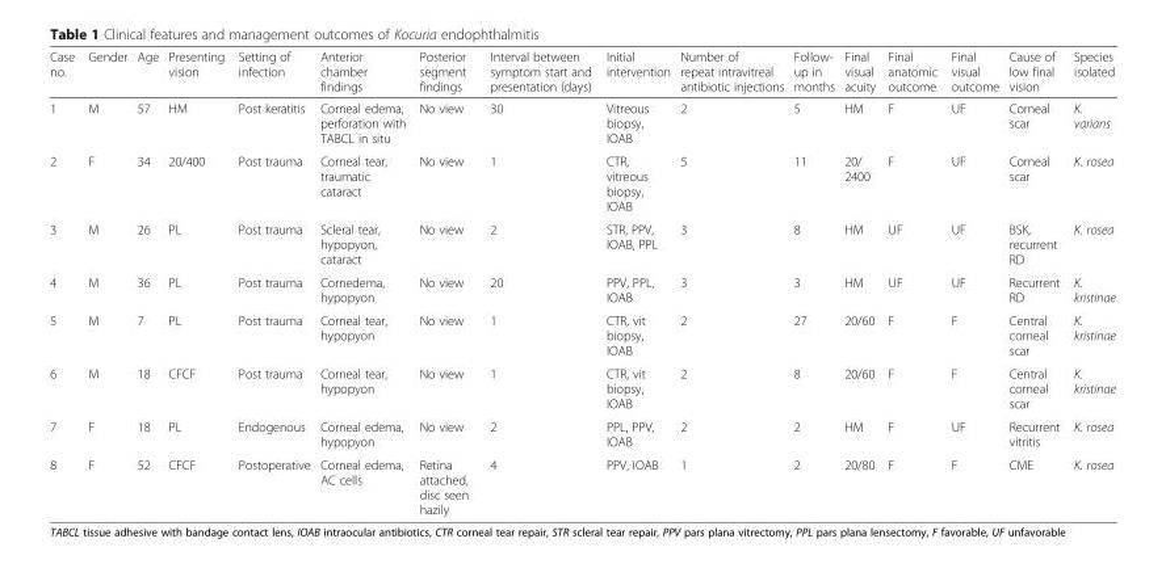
<table><thead><tr><td>Case no.</td><td>Gender</td><td>Age</td><td>Presenting vision</td><td>Setting of infection</td><td>Anterior chamber findings</td><td>Posterior segment findings</td><td>Interval between symptom start and presentation (days)</td><td>Initial intervention</td><td>Number of repeat intravitreal antibiotic injections</td><td>Follow- up in months</td><td>Final visual acuity</td><td>Final anatomic outcome</td><td>Final visual outcome</td><td>Cause of low final vision</td><td>Species isolated</td></tr></thead><tbody><tr><td>1</td><td>M</td><td>57</td><td>HM</td><td>Post keratitis</td><td>Corneal edema, perforation with TABCL in situ</td><td>No view</td><td>30</td><td>Vitreous biopsy, IOAB</td><td>2</td><td>5</td><td>HM</td><td>F</td><td>UF</td><td>Corneal scar</td><td>K. varians</td></tr><tr><td>2</td><td>F</td><td>34</td><td>20/400</td><td>Post trauma</td><td>Corneal tear, traumatic cataract</td><td>No view</td><td>1</td><td>CTR, vitreous biopsy, IOAB</td><td>5</td><td>11</td><td>20/ 2400</td><td>F</td><td>UF</td><td>Corneal scar</td><td>K. rosea</td></tr><tr><td>3</td><td>M</td><td>26</td><td>PL</td><td>Post trauma</td><td>Scleral tear, hypopyon, cataract</td><td>No view</td><td>2</td><td>STR, PPV, IOAB, PPL</td><td>3</td><td>8</td><td>HM</td><td>UF</td><td>UF</td><td>BSK, recurrent RD</td><td>K. rosea</td></tr><tr><td>4</td><td>M</td><td>36</td><td>PL</td><td>Post trauma</td><td>Cornedema, hypopyon</td><td>No view</td><td>20</td><td>PPV, PPL, IOAB</td><td>3</td><td>3</td><td>HM</td><td>UF</td><td>UF</td><td>Recurrent RD</td><td>K. kristinae</td></tr><tr><td>5</td><td>M</td><td>7</td><td>PL</td><td>Post trauma</td><td>Corneal tear, hypopyon</td><td>No view</td><td>1</td><td>CTR, vit biopsy, IOAB</td><td>2</td><td>27</td><td>20/60</td><td>F</td><td>F</td><td>Central corneal scar</td><td>K. kristinae</td></tr><tr><td>6</td><td>M</td><td>18</td><td>CFCF</td><td>Post trauma</td><td>Corneal tear, hypopyon</td><td>No view</td><td>1</td><td>CTR, vit biopsy, IOAB</td><td>2</td><td>8</td><td>20/60</td><td>F</td><td>F</td><td>Central corneal scar</td><td>K. kristinae</td></tr><tr><td>7</td><td>F</td><td>18</td><td>PL</td><td>Endogenous</td><td>Corneal edema, hypopyon</td><td>No view</td><td>2</td><td>PPL, PPV, IOAB</td><td>2</td><td>2</td><td>HM</td><td>F</td><td>UF</td><td>Recurrent vitritis</td><td>K. rosea</td></tr><tr><td>8</td><td>F</td><td>52</td><td>CFCF</td><td>Postoperative</td><td>Corneal edema, AC cells</td><td>Retina attached, disc seen hazily</td><td>4</td><td>PPV, IOAB</td><td>1</td><td>2</td><td>20/80</td><td>F</td><td>F</td><td>CME</td><td>K. rosea</td></tr></tbody></table>